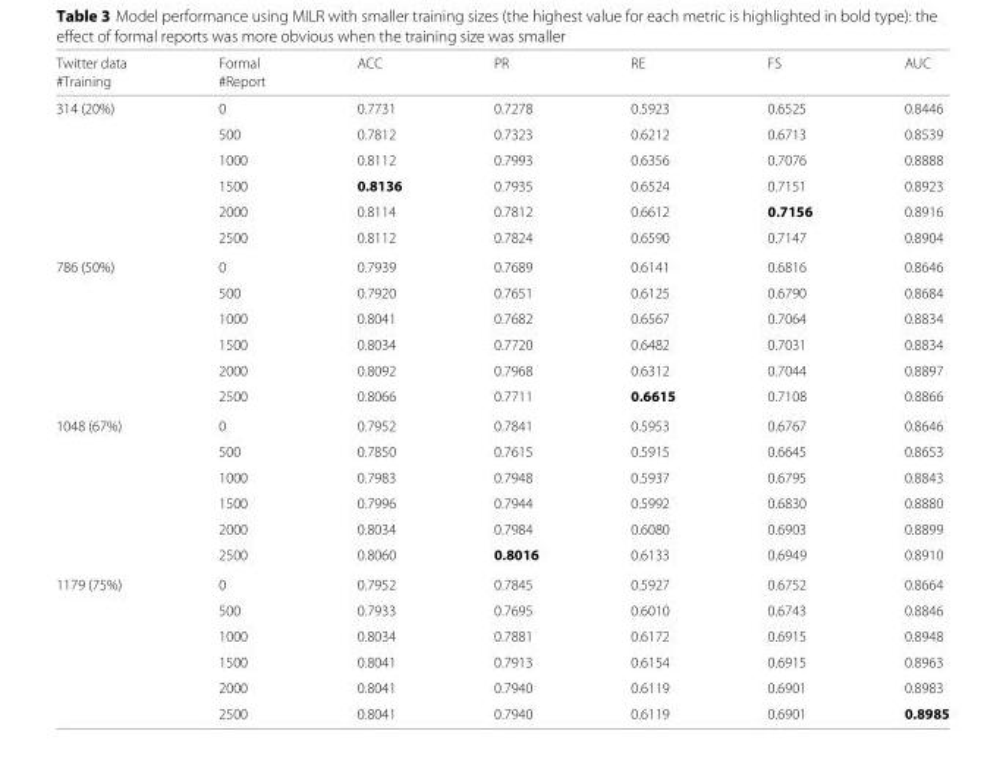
<table><thead><tr><td rowspan="2">Twitter data #Training</td><td rowspan="2">Formal #Report</td><td rowspan="2">ACC</td><td rowspan="2">PR</td><td rowspan="2">RE</td><td rowspan="2">FS</td><td rowspan="2">AUC</td></tr><tr></tr></thead><tbody><tr><td rowspan="6">314 (20%)</td><td>0</td><td>0.7731</td><td>0.7278</td><td>0.5923</td><td>0.6525</td><td>0.8446</td></tr><tr><td>500</td><td>0.7812</td><td>0.7323</td><td>0.6212</td><td>0.6713</td><td>0.8539</td></tr><tr><td>1000</td><td>0.8112</td><td>0.7993</td><td>0.6356</td><td>0.7076</td><td>0.8888</td></tr><tr><td>1500</td><td>0.8136</td><td>0.7935</td><td>0.6524</td><td>0.7151</td><td>0.8923</td></tr><tr><td>2000</td><td>0.8114</td><td>0.7812</td><td>0.6612</td><td>0.7156</td><td>0.8916</td></tr><tr><td>2500</td><td>0.8112</td><td>0.7824</td><td>0.6590</td><td>0.7147</td><td>0.8904</td></tr><tr><td rowspan="6">786 (50%)</td><td>0</td><td>0.7939</td><td>0.7689</td><td>0.6141</td><td>0.6816</td><td>0.8646</td></tr><tr><td>500</td><td>0.7920</td><td>0.7651</td><td>0.6125</td><td>0.6790</td><td>0.8684</td></tr><tr><td>1000</td><td>0.8041</td><td>0.7682</td><td>0.6567</td><td>0.7064</td><td>0.8834</td></tr><tr><td>1500</td><td>0.8034</td><td>0.7720</td><td>0.6482</td><td>0.7031</td><td>0.8834</td></tr><tr><td>2000</td><td>0.8092</td><td>0.7968</td><td>0.6312</td><td>0.7044</td><td>0.8897</td></tr><tr><td>2500</td><td>0.8066</td><td>0.7711</td><td>0.6615</td><td>0.7108</td><td>0.8866</td></tr><tr><td rowspan="6">1048 (67%)</td><td>0</td><td>0.7952</td><td>0.7841</td><td>0.5953</td><td>0.6767</td><td>0.8646</td></tr><tr><td>500</td><td>0.7850</td><td>0.7615</td><td>0.5915</td><td>0.6645</td><td>0.8653</td></tr><tr><td>1000</td><td>0.7983</td><td>0.7948</td><td>0.5937</td><td>0.6795</td><td>0.8843</td></tr><tr><td>1500</td><td>0.7996</td><td>0.7944</td><td>0.5992</td><td>0.6830</td><td>0.8880</td></tr><tr><td>2000</td><td>0.8034</td><td>0.7984</td><td>0.6080</td><td>0.6903</td><td>0.8899</td></tr><tr><td>2500</td><td>0.8060</td><td>0.8016</td><td>0.6133</td><td>0.6949</td><td>0.8910</td></tr><tr><td rowspan="6">1179 (75%)</td><td>0</td><td>0.7952</td><td>0.7845</td><td>0.5927</td><td>0.6752</td><td>0.8664</td></tr><tr><td>500</td><td>0.7933</td><td>0.7695</td><td>0.6010</td><td>0.6743</td><td>0.8846</td></tr><tr><td>1000</td><td>0.8034</td><td>0.7881</td><td>0.6172</td><td>0.6915</td><td>0.8948</td></tr><tr><td>1500</td><td>0.8041</td><td>0.7913</td><td>0.6154</td><td>0.6915</td><td>0.8963</td></tr><tr><td>2000</td><td>0.8041</td><td>0.7940</td><td>0.6119</td><td>0.6901</td><td>0.8983</td></tr><tr><td>2500</td><td>0.8041</td><td>0.7940</td><td>0.6119</td><td>0.6901</td><td>0.8985</td></tr></tbody></table>